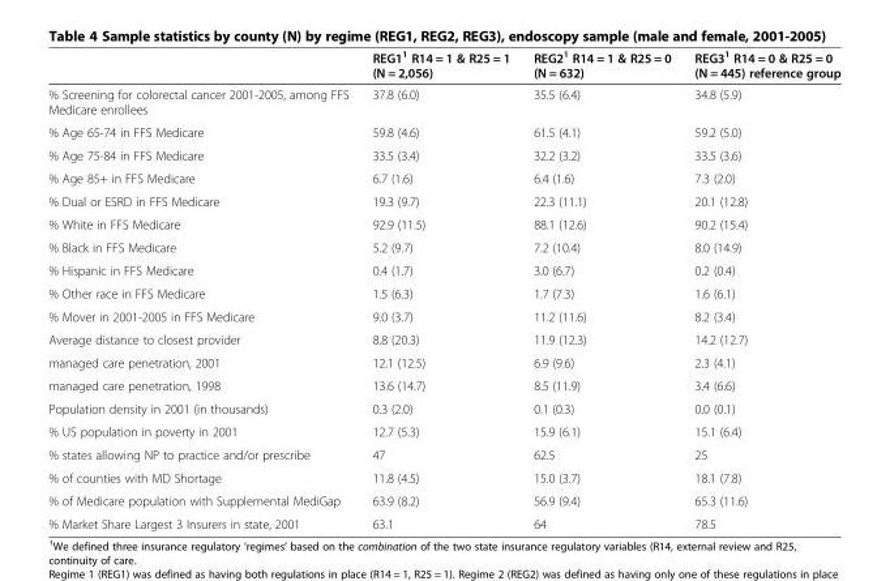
<table><thead><tr><td></td><td>REG1<sup>1</sup> R14 = 1 &amp; R25 = 1 (N = 2,056)</td><td>REG2<sup>1</sup> R14 = 1 &amp; R25 = 0 (N = 632)</td><td>REG3<sup>1</sup> R14 = 0 &amp; R25 = 0 (N = 445) reference group</td></tr></thead><tbody><tr><td>% Screening for colorectal cancer 2001-2005, among FFS Medicare enrollees</td><td>37.8 (6.0)</td><td>35.5 (6.4)</td><td>34.8 (5.9)</td></tr><tr><td>% Age 65-74 in FFS Medicare</td><td>59.8 (4.6)</td><td>61.5 (4.1)</td><td>59.2 (5.0)</td></tr><tr><td>% Age 75-84 in FFS Medicare</td><td>33.5 (3.4)</td><td>32.2 (3.2)</td><td>33.5 (3.6)</td></tr><tr><td>% Age 85+ in FFS Medicare</td><td>6.7 (1.6)</td><td>6.4 (1.6)</td><td>7.3 (2.0)</td></tr><tr><td>% Dual or ESRD in FFS Medicare</td><td>19.3 (9.7)</td><td>22.3 (11.1)</td><td>20.1 (12.8)</td></tr><tr><td>% White in FFS Medicare</td><td>92.9 (11.5)</td><td>88.1 (12.6)</td><td>90.2 (15.4)</td></tr><tr><td>% Black in FFS Medicare</td><td>5.2 (9.7)</td><td>7.2 (10.4)</td><td>8.0 (14.9)</td></tr><tr><td>% Hispanic in FFS Medicare</td><td>0.4 (1.7)</td><td>3.0 (6.7)</td><td>0.2 (0.4)</td></tr><tr><td>% Other race in FFS Medicare</td><td>1.5 (6.3)</td><td>1.7 (7.3)</td><td>1.6 (6.1)</td></tr><tr><td>% Mover in 2001-2005 in FFS Medicare</td><td>9.0 (3.7)</td><td>11.2 (11.6)</td><td>8.2 (3.4)</td></tr><tr><td>Average distance to closest provider</td><td>8.8 (20.3)</td><td>11.9 (12.3)</td><td>14.2 (12.7)</td></tr><tr><td>managed care penetration, 2001</td><td>12.1 (12.5)</td><td>6.9 (9.6)</td><td>2.3 (4.1)</td></tr><tr><td>managed care penetration, 1998</td><td>13.6 (14.7)</td><td>8.5 (11.9)</td><td>3.4 (6.6)</td></tr><tr><td>Population density in 2001 (in thousands)</td><td>0.3 (2.0)</td><td>0.1 (0.3)</td><td>0.0 (0.1)</td></tr><tr><td>% US population in poverty in 2001</td><td>12.7 (5.3)</td><td>15.9 (6.1)</td><td>15.1 (6.4)</td></tr><tr><td>% states allowing NP to practice and/or prescribe</td><td>47</td><td>62.5</td><td>25</td></tr><tr><td>% of counties with MD Shortage</td><td>11.8 (4.5)</td><td>15.0 (3.7)</td><td>18.1 (7.8)</td></tr><tr><td>% of Medicare population with Supplemental MediGap</td><td>63.9 (8.2)</td><td>56.9 (9.4)</td><td>65.3 (11.6)</td></tr><tr><td>% Market Share Largest 3 Insurers in state, 2001</td><td>63.1</td><td>64</td><td>78.5</td></tr></tbody></table>